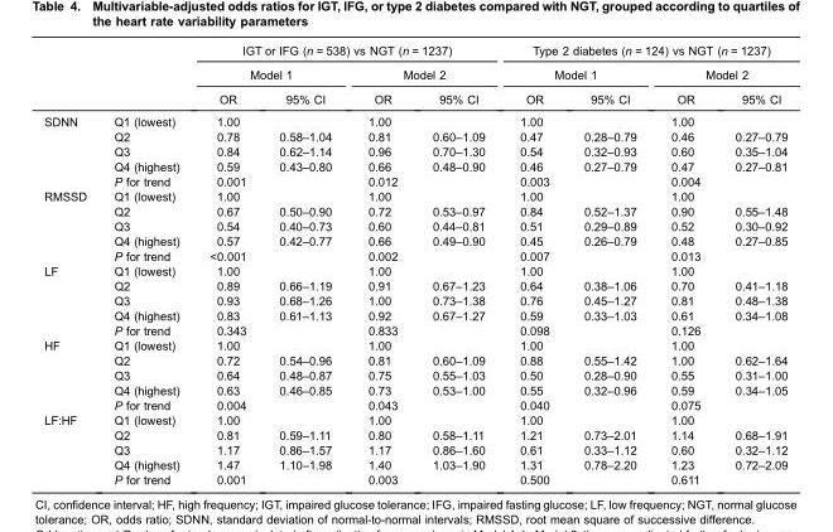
<table><thead><tr><td rowspan="3"></td><td rowspan="3"></td><td colspan="4">IGT or IFG (n = 538) vs NGT (n = 1237)</td><td colspan="4">Type 2 diabetes (n = 124) vs NGT (n = 1237)</td></tr><tr><td colspan="2">Model 1</td><td colspan="2">Model 2</td><td colspan="2">Model 1</td><td colspan="2">Model 2</td></tr><tr><td>OR</td><td>95% CI</td><td>OR</td><td>95% CI</td><td>OR</td><td>95% CI</td><td>OR</td><td>95% CI</td></tr></thead><tbody><tr><td rowspan="5">SDNN</td><td>Q1 (lowest)</td><td>1.00</td><td></td><td>1.00</td><td></td><td>1.00</td><td></td><td>1.00</td><td></td></tr><tr><td>Q2</td><td>0.78</td><td>0.58–1.04</td><td>0.81</td><td>0.60–1.09</td><td>0.47</td><td>0.28–0.79</td><td>0.46</td><td>0.27–0.79</td></tr><tr><td>Q3</td><td>0.84</td><td>0.62–1.14</td><td>0.96</td><td>0.70–1.30</td><td>0.54</td><td>0.32–0.93</td><td>0.60</td><td>0.35–1.04</td></tr><tr><td>Q4 (highest)</td><td>0.59</td><td>0.43–0.80</td><td>0.66</td><td>0.48–0.90</td><td>0.46</td><td>0.27–0.79</td><td>0.47</td><td>0.27–0.81</td></tr><tr><td>P for trend</td><td>0.001</td><td></td><td>0.012</td><td></td><td>0.003</td><td></td><td>0.004</td><td></td></tr><tr><td rowspan="5">RMSSD</td><td>Q1 (lowest)</td><td>1.00</td><td></td><td>1.00</td><td></td><td>1.00</td><td></td><td>1.00</td><td></td></tr><tr><td>Q2</td><td>0.67</td><td>0.50–0.90</td><td>0.72</td><td>0.53–0.97</td><td>0.84</td><td>0.52–1.37</td><td>0.90</td><td>0.55–1.48</td></tr><tr><td>Q3</td><td>0.54</td><td>0.40–0.73</td><td>0.60</td><td>0.44–0.81</td><td>0.51</td><td>0.29–0.89</td><td>0.52</td><td>0.30–0.92</td></tr><tr><td>Q4 (highest)</td><td>0.57</td><td>0.42–0.77</td><td>0.66</td><td>0.49–0.90</td><td>0.45</td><td>0.26–0.79</td><td>0.48</td><td>0.27–0.85</td></tr><tr><td>P for trend</td><td>&lt;0.001</td><td></td><td>0.002</td><td></td><td>0.007</td><td></td><td>0.013</td><td></td></tr><tr><td rowspan="5">LF</td><td>Q1 (lowest)</td><td>1.00</td><td></td><td>1.00</td><td></td><td>1.00</td><td></td><td>1.00</td><td></td></tr><tr><td>Q2</td><td>0.89</td><td>0.66–1.19</td><td>0.91</td><td>0.67–1.23</td><td>0.64</td><td>0.38–1.06</td><td>0.70</td><td>0.41–1.18</td></tr><tr><td>Q3</td><td>0.93</td><td>0.68–1.26</td><td>1.00</td><td>0.73–1.38</td><td>0.76</td><td>0.45–1.27</td><td>0.81</td><td>0.48–1.38</td></tr><tr><td>Q4 (highest)</td><td>0.83</td><td>0.61–1.13</td><td>0.92</td><td>0.67–1.27</td><td>0.59</td><td>0.33–1.03</td><td>0.61</td><td>0.34–1.08</td></tr><tr><td>P for trend</td><td>0.343</td><td></td><td>0.833</td><td></td><td>0.098</td><td></td><td>0.126</td><td></td></tr><tr><td rowspan="5">HF</td><td>Q1 (lowest)</td><td>1.00</td><td></td><td>1.00</td><td></td><td>1.00</td><td></td><td>1.00</td><td></td></tr><tr><td>Q2</td><td>0.72</td><td>0.54–0.96</td><td>0.81</td><td>0.60–1.09</td><td>0.88</td><td>0.55–1.42</td><td>1.00</td><td>0.62–1.64</td></tr><tr><td>Q3</td><td>0.64</td><td>0.48–0.87</td><td>0.75</td><td>0.55–1.03</td><td>0.50</td><td>0.28–0.90</td><td>0.55</td><td>0.31–1.00</td></tr><tr><td>Q4 (highest)</td><td>0.63</td><td>0.46–0.85</td><td>0.73</td><td>0.53–1.00</td><td>0.55</td><td>0.32–0.96</td><td>0.59</td><td>0.34–1.05</td></tr><tr><td>P for trend</td><td>0.004</td><td></td><td>0.043</td><td></td><td>0.040</td><td></td><td>0.075</td><td></td></tr><tr><td rowspan="5">LF:HF</td><td>Q1 (lowest)</td><td>1.00</td><td></td><td>1.00</td><td></td><td>1.00</td><td></td><td>1.00</td><td></td></tr><tr><td>Q2</td><td>0.81</td><td>0.59–1.11</td><td>0.80</td><td>0.58–1.11</td><td>1.21</td><td>0.73–2.01</td><td>1.14</td><td>0.68–1.91</td></tr><tr><td>Q3</td><td>1.17</td><td>0.86–1.57</td><td>1.17</td><td>0.86–1.60</td><td>0.61</td><td>0.33–1.12</td><td>0.60</td><td>0.32–1.12</td></tr><tr><td>Q4 (highest)</td><td>1.47</td><td>1.10–1.98</td><td>1.40</td><td>1.03–1.90</td><td>1.31</td><td>0.78–2.20</td><td>1.23</td><td>0.72–2.09</td></tr><tr><td>P for trend</td><td>0.001</td><td></td><td>0.003</td><td></td><td>0.500</td><td></td><td>0.611</td><td></td></tr></tbody></table>